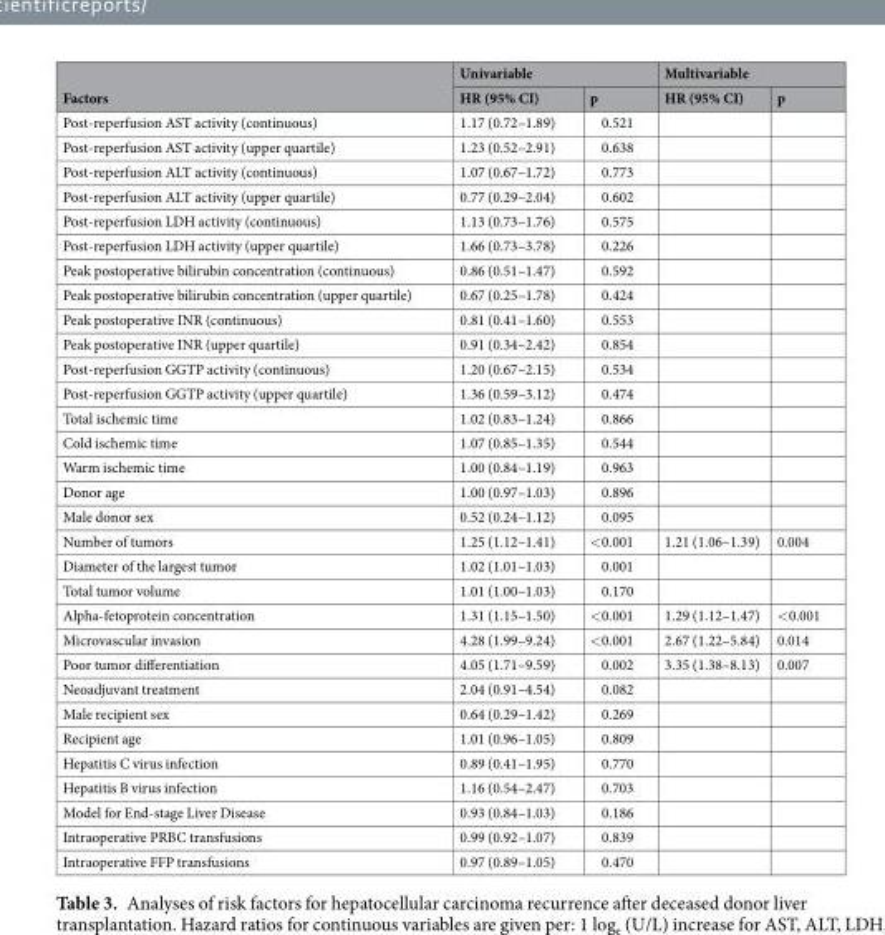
<table><thead><tr><td rowspan="2">Factors</td><td colspan="2">Univariable</td><td colspan="2">Multivariable</td></tr><tr><td>HR (95% CI)</td><td>p</td><td>HR (95% CI)</td><td>p</td></tr></thead><tbody><tr><td>Post-reperfusion AST activity (continuous)</td><td>1.17 (0.72–1.89)</td><td>0.521</td><td></td><td></td></tr><tr><td>Post-reperfusion AST activity (upper quartile)</td><td>1.23 (0.52–2.91)</td><td>0.638</td><td></td><td></td></tr><tr><td>Post-reperfusion ALT activity (continuous)</td><td>1.07 (0.67–1.72)</td><td>0.773</td><td></td><td></td></tr><tr><td>Post-reperfusion ALT activity (upper quartile)</td><td>0.77 (0.29–2.04)</td><td>0.602</td><td></td><td></td></tr><tr><td>Post-reperfusion LDH activity (continuous)</td><td>1.13 (0.73–1.76)</td><td>0.575</td><td></td><td></td></tr><tr><td>Post-reperfusion LDH activity (upper quartile)</td><td>1.66 (0.73–3.78)</td><td>0.226</td><td></td><td></td></tr><tr><td>Peak postoperative bilirubin concentration (continuous)</td><td>0.86 (0.51–1.47)</td><td>0.592</td><td></td><td></td></tr><tr><td>Peak postoperative bilirubin concentration (upper quartile)</td><td>0.67 (0.25–1.78)</td><td>0.424</td><td></td><td></td></tr><tr><td>Peak postoperative INR (continuous)</td><td>0.81 (0.41–1.60)</td><td>0.553</td><td></td><td></td></tr><tr><td>Peak postoperative INR (upper quartile)</td><td>0.91 (0.34–2.42)</td><td>0.854</td><td></td><td></td></tr><tr><td>Post-reperfusion GGTP activity (continuous)</td><td>1.20 (0.67–2.15)</td><td>0.534</td><td></td><td></td></tr><tr><td>Post-reperfusion GGTP activity (upper quartile)</td><td>1.36 (0.59–3.12)</td><td>0.474</td><td></td><td></td></tr><tr><td>Total ischemic time</td><td>1.02 (0.83–1.24)</td><td>0.866</td><td></td><td></td></tr><tr><td>Cold ischemic time</td><td>1.07 (0.85–1.35)</td><td>0.544</td><td></td><td></td></tr><tr><td>Warm ischemic time</td><td>1.00 (0.84–1.19)</td><td>0.963</td><td></td><td></td></tr><tr><td>Donor age</td><td>1.00 (0.97–1.03)</td><td>0.896</td><td></td><td></td></tr><tr><td>Male donor sex</td><td>0.52 (0.24–1.12)</td><td>0.095</td><td></td><td></td></tr><tr><td>Number of tumors</td><td>1.25 (1.12–1.41)</td><td>&lt;0.001</td><td>1.21 (1.06–1.39)</td><td>0.004</td></tr><tr><td>Diameter of the largest tumor</td><td>1.02 (1.01–1.03)</td><td>0.001</td><td></td><td></td></tr><tr><td>Total tumor volume</td><td>1.01 (1.00–1.03)</td><td>0.170</td><td></td><td></td></tr><tr><td>Alpha-fetoprotein concentration</td><td>1.31 (1.15–1.50)</td><td>&lt;0.001</td><td>1.29 (1.12–1.47)</td><td>&lt;0.001</td></tr><tr><td>Microvascular invasion</td><td>4.28 (1.99–9.24)</td><td>&lt;0.001</td><td>2.67 (1.22–5.84)</td><td>0.014</td></tr><tr><td>Poor tumor differentiation</td><td>4.05 (1.71–9.59)</td><td>0.002</td><td>3.35 (1.38–8.13)</td><td>0.007</td></tr><tr><td>Neoadjuvant treatment</td><td>2.04 (0.91–4.54)</td><td>0.082</td><td></td><td></td></tr><tr><td>Male recipient sex</td><td>0.64 (0.29–1.42)</td><td>0.269</td><td></td><td></td></tr><tr><td>Recipient age</td><td>1.01 (0.96–1.05)</td><td>0.809</td><td></td><td></td></tr><tr><td>Hepatitis C virus infection</td><td>0.89 (0.41–1.95)</td><td>0.770</td><td></td><td></td></tr><tr><td>Hepatitis B virus infection</td><td>1.16 (0.54–2.47)</td><td>0.703</td><td></td><td></td></tr><tr><td>Model for End-stage Liver Disease</td><td>0.93 (0.84–1.03)</td><td>0.186</td><td></td><td></td></tr><tr><td>Intraoperative PRBC transfusions</td><td>0.99 (0.92–1.07)</td><td>0.839</td><td></td><td></td></tr><tr><td>Intraoperative FFP transfusions</td><td>0.97 (0.89–1.05)</td><td>0.470</td><td></td><td></td></tr></tbody></table>